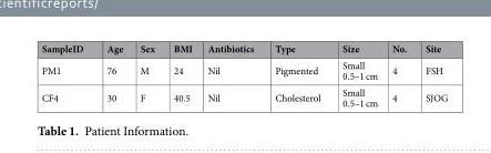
<table><thead><tr><td>SampleID</td><td>Age</td><td>Sex</td><td>BMI</td><td>Antibiotics</td><td>Type</td><td>Size</td><td>No.</td><td>Site</td></tr></thead><tbody><tr><td>PM1</td><td>76</td><td>M</td><td>24</td><td>Nil</td><td>Pigmented</td><td>Small 0.5–1 cm</td><td>4</td><td>FSH</td></tr><tr><td>CF4</td><td>30</td><td>F</td><td>40.5</td><td>Nil</td><td>Cholesterol</td><td>Small 0.5–1 cm</td><td>4</td><td>SJOG</td></tr></tbody></table>